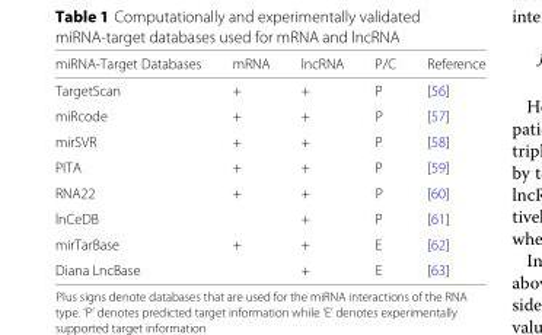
<table><thead><tr><td>miRNA-Target Databases</td><td>mRNA</td><td>lncRNA</td><td>P/C</td><td>Reference</td></tr></thead><tbody><tr><td>TargetScan</td><td>+</td><td>+</td><td>P</td><td>[56]</td></tr><tr><td>miRcode</td><td>+</td><td>+</td><td>P</td><td>[57]</td></tr><tr><td>mirSVR</td><td>+</td><td>+</td><td>P</td><td>[58]</td></tr><tr><td>PITA</td><td>+</td><td>+</td><td>P</td><td>[59]</td></tr><tr><td>RNA22</td><td>+</td><td>+</td><td>P</td><td>[60]</td></tr><tr><td>lnCeDB</td><td></td><td>+</td><td>P</td><td>[61]</td></tr><tr><td>mirTarBase</td><td>+</td><td>+</td><td>E</td><td>[62]</td></tr><tr><td>Diana LncBase</td><td></td><td>+</td><td>E</td><td>[63]</td></tr></tbody></table>